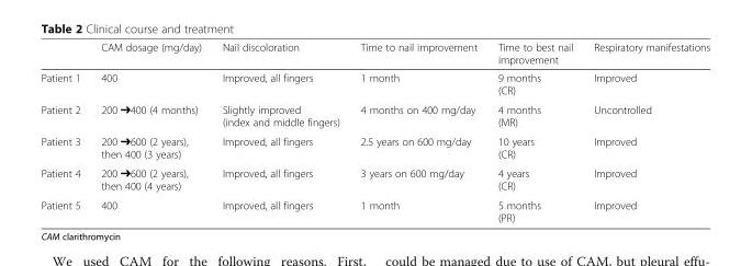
<table><thead><tr><td></td><td>CAM dosage (mg/day)</td><td>Nail discoloration</td><td>Time to nail improvement</td><td>Time to best nail improvement</td><td>Respiratory manifestations</td></tr></thead><tbody><tr><td>Patient 1</td><td>400</td><td>Improved, all fingers</td><td>1 month</td><td>9 months (CR)</td><td>Improved</td></tr><tr><td>Patient 2</td><td>200 ➔400 (4 months)</td><td>Slightly improved (index and middle fingers)</td><td>4 months on 400 mg/day</td><td>4 months (MR)</td><td>Uncontrolled</td></tr><tr><td>Patient 3</td><td>200 ➔600 (2 years), then 400 (3 years)</td><td>Improved, all fingers</td><td>2.5 years on 600 mg/day</td><td>10 years (CR)</td><td>Improved</td></tr><tr><td>Patient 4</td><td>200 ➔600 (2 years), then 400 (4 years)</td><td>Improved, all fingers</td><td>3 years on 600 mg/day</td><td>4 years (CR)</td><td>Improved</td></tr><tr><td>Patient 5</td><td>400</td><td>Improved, all fingers</td><td>1 month</td><td>5 months (PR)</td><td>Improved</td></tr></tbody></table>